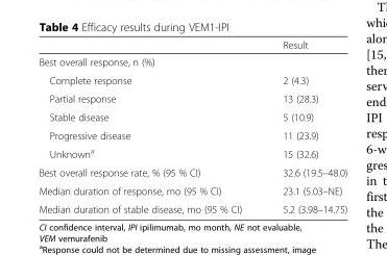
<table><thead><tr><td></td><td>Result</td></tr></thead><tbody><tr><td colspan="2">Best overall response, n (%)</td></tr><tr><td>Complete response</td><td>2 (4.3)</td></tr><tr><td>Partial response</td><td>13 (28.3)</td></tr><tr><td>Stable disease</td><td>5 (10.9)</td></tr><tr><td>Progressive disease</td><td>11 (23.9)</td></tr><tr><td>Unknown<sup>a</sup></td><td>15 (32.6)</td></tr><tr><td>Best overall response rate, % (95 % CI)</td><td>32.6 (19.5–48.0)</td></tr><tr><td>Median duration of response, mo (95 % CI)</td><td>23.1 (5.03–NE)</td></tr><tr><td>Median duration of stable disease, mo (95 % CI)</td><td>5.2 (3.98–14.75)</td></tr></tbody></table>